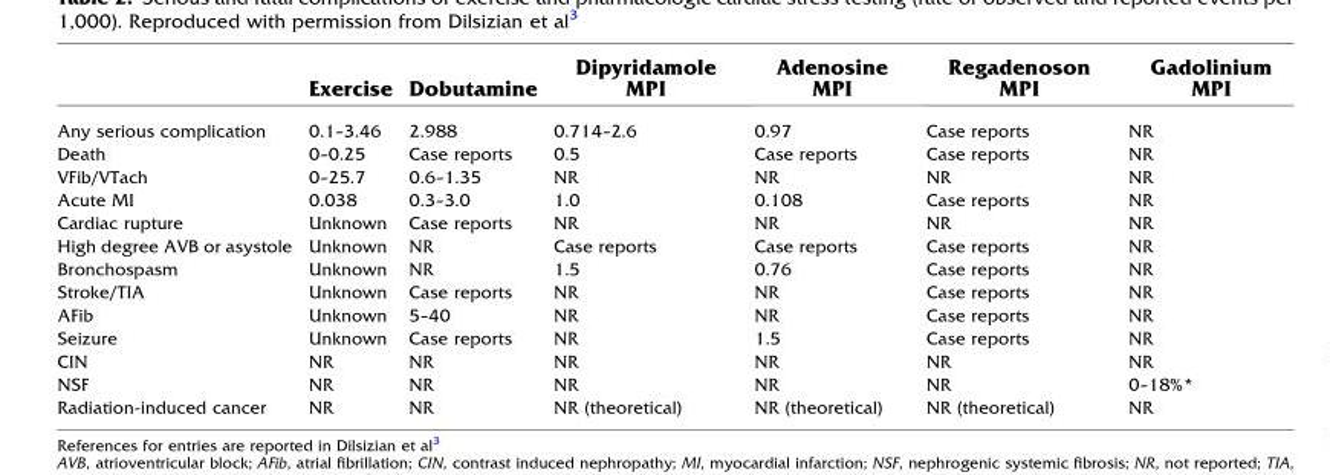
<table><thead><tr><td></td><td>Exercise</td><td>Dobutamine</td><td>Dipyridamole MPI</td><td>Adenosine MPI</td><td>Regadenoson MPI</td><td>Gadolinium MPI</td></tr></thead><tbody><tr><td>Any serious complication</td><td>0.1–3.46</td><td>2.988</td><td>0.714–2.6</td><td>0.97</td><td>Case reports</td><td>NR</td></tr><tr><td>Death</td><td>0–0.25</td><td>Case reports</td><td>0.5</td><td>Case reports</td><td>Case reports</td><td>NR</td></tr><tr><td>VFib/VTach</td><td>0–25.7</td><td>0.6–1.35</td><td>NR</td><td>NR</td><td>NR</td><td>NR</td></tr><tr><td>Acute MI</td><td>0.038</td><td>0.3–3.0</td><td>1.0</td><td>0.108</td><td>Case reports</td><td>NR</td></tr><tr><td>Cardiac rupture</td><td>Unknown</td><td>Case reports</td><td>NR</td><td>NR</td><td>NR</td><td>NR</td></tr><tr><td>High degree AVB or asystole</td><td>Unknown</td><td>NR</td><td>Case reports</td><td>Case reports</td><td>Case reports</td><td>NR</td></tr><tr><td>Bronchospasm</td><td>Unknown</td><td>NR</td><td>1.5</td><td>0.76</td><td>Case reports</td><td>NR</td></tr><tr><td>Stroke/TIA</td><td>Unknown</td><td>Case reports</td><td>NR</td><td>NR</td><td>Case reports</td><td>NR</td></tr><tr><td>AFib</td><td>Unknown</td><td>5–40</td><td>NR</td><td>NR</td><td>Case reports</td><td>NR</td></tr><tr><td>Seizure</td><td>Unknown</td><td>Case reports</td><td>NR</td><td>1.5</td><td>Case reports</td><td>NR</td></tr><tr><td>CIN</td><td>NR</td><td>NR</td><td>NR</td><td>NR</td><td>NR</td><td>NR</td></tr><tr><td>NSF</td><td>NR</td><td>NR</td><td>NR</td><td>NR</td><td>NR</td><td>0–18%*</td></tr><tr><td>Radiation-induced cancer</td><td>NR</td><td>NR</td><td>NR (theoretical)</td><td>NR (theoretical)</td><td>NR (theoretical)</td><td>NR</td></tr></tbody></table>